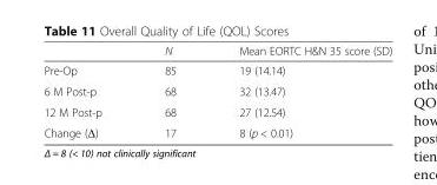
<table><thead><tr><td></td><td>N</td><td>Mean EORTC H&amp;N 35 score (SD)</td></tr></thead><tbody><tr><td>Pre-Op</td><td>85</td><td>19 (14.14)</td></tr><tr><td>6 M Post-p</td><td>68</td><td>32 (13.47)</td></tr><tr><td>12 M Post-p</td><td>68</td><td>27 (12.54)</td></tr><tr><td>Change (Δ)</td><td>17</td><td>8 (p &lt; 0.01)</td></tr></tbody></table>